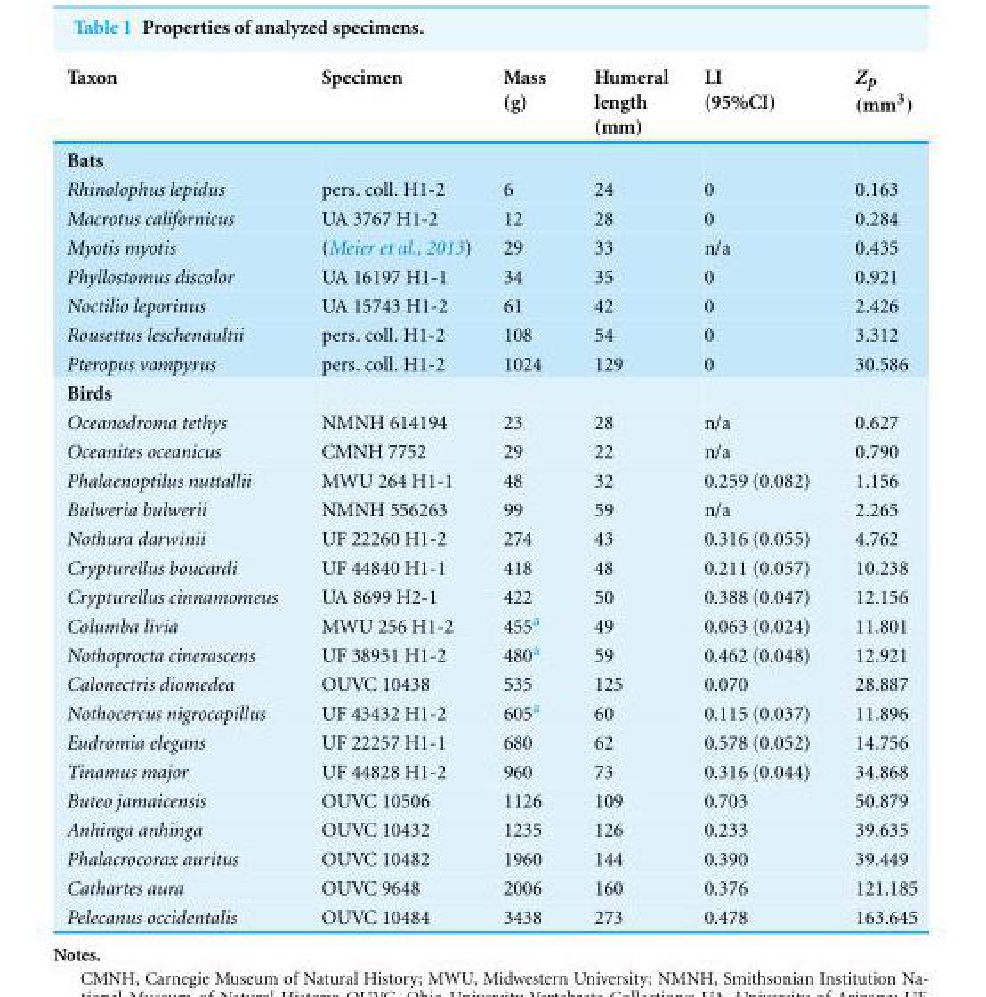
<table><thead><tr><td>Taxon</td><td>Specimen</td><td>Mass (g)</td><td>Humeral length (mm)</td><td>LI (95%CI)</td><td>Z<sub>p</sub> (mm<sup>3</sup>)</td></tr></thead><tbody><tr><td colspan="6">Bats</td></tr><tr><td>Rhinolophus lepidus</td><td>pers. coll. H1-2</td><td>6</td><td>24</td><td>0</td><td>0.163</td></tr><tr><td>Macrotus californicus</td><td>UA 3767 H1-2</td><td>12</td><td>28</td><td>0</td><td>0.284</td></tr><tr><td>Myotis myotis</td><td>(Meier et al., 2013)</td><td>29</td><td>33</td><td>n/a</td><td>0.435</td></tr><tr><td>Phyllostomus discolor</td><td>UA 16197 H1-1</td><td>34</td><td>35</td><td>0</td><td>0.921</td></tr><tr><td>Noctilio leporinus</td><td>UA 15743 H1-2</td><td>61</td><td>42</td><td>0</td><td>2.426</td></tr><tr><td>Rousettus leschenaultii</td><td>pers. coll. H1-2</td><td>108</td><td>54</td><td>0</td><td>3.312</td></tr><tr><td>Pteropus vampyrus</td><td>pers. coll. H1-2</td><td>1024</td><td>129</td><td>0</td><td>30.586</td></tr><tr><td colspan="6">Birds</td></tr><tr><td>Oceanodroma tethys</td><td>NMNH 614194</td><td>23</td><td>28</td><td>n/a</td><td>0.627</td></tr><tr><td>Oceanites oceanicus</td><td>CMNH 7752</td><td>29</td><td>22</td><td>n/a</td><td>0.790</td></tr><tr><td>Phalaenoptilus nuttallii</td><td>MWU 264 H1-1</td><td>48</td><td>32</td><td>0.259 (0.082)</td><td>1.156</td></tr><tr><td>Bulweria bulwerii</td><td>NMNH 556263</td><td>99</td><td>59</td><td>n/a</td><td>2.265</td></tr><tr><td>Nothura darwinii</td><td>UF 22260 H1-2</td><td>274</td><td>43</td><td>0.316 (0.055)</td><td>4.762</td></tr><tr><td>Crypturellus boucardi</td><td>UF 44840 H1-1</td><td>418</td><td>48</td><td>0.211 (0.057)</td><td>10.238</td></tr><tr><td>Crypturellus cinnamomeus</td><td>UA 8699 H2-1</td><td>422</td><td>50</td><td>0.388 (0.047)</td><td>12.156</td></tr><tr><td>Columba livia</td><td>MWU 256 H1-2</td><td>455<sup>a</sup></td><td>49</td><td>0.063 (0.024)</td><td>11.801</td></tr><tr><td>Nothoprocta cinerascens</td><td>UF 38951 H1-2</td><td>480<sup>a</sup></td><td>59</td><td>0.462 (0.048)</td><td>12.921</td></tr><tr><td>Calonectris diomedea</td><td>OUVC 10438</td><td>535</td><td>125</td><td>0.070</td><td>28.887</td></tr><tr><td>Nothocercus nigrocapillus</td><td>UF 43432 H1-2</td><td>605<sup>a</sup></td><td>60</td><td>0.115 (0.037)</td><td>11.896</td></tr><tr><td>Eudromia elegans</td><td>UF 22257 H1-1</td><td>680</td><td>62</td><td>0.578 (0.052)</td><td>14.756</td></tr><tr><td>Tinamus major</td><td>UF 44828 H1-2</td><td>960</td><td>73</td><td>0.316 (0.044)</td><td>34.868</td></tr><tr><td>Buteo jamaicensis</td><td>OUVC 10506</td><td>1126</td><td>109</td><td>0.703</td><td>50.879</td></tr><tr><td>Anhinga anhinga</td><td>OUVC 10432</td><td>1235</td><td>126</td><td>0.233</td><td>39.635</td></tr><tr><td>Phalacrocorax auritus</td><td>OUVC 10482</td><td>1960</td><td>144</td><td>0.390</td><td>39.449</td></tr><tr><td>Cathartes aura</td><td>OUVC 9648</td><td>2006</td><td>160</td><td>0.376</td><td>121.185</td></tr><tr><td>Pelecanus occidentalis</td><td>OUVC 10484</td><td>3438</td><td>273</td><td>0.478</td><td>163.645</td></tr></tbody></table>